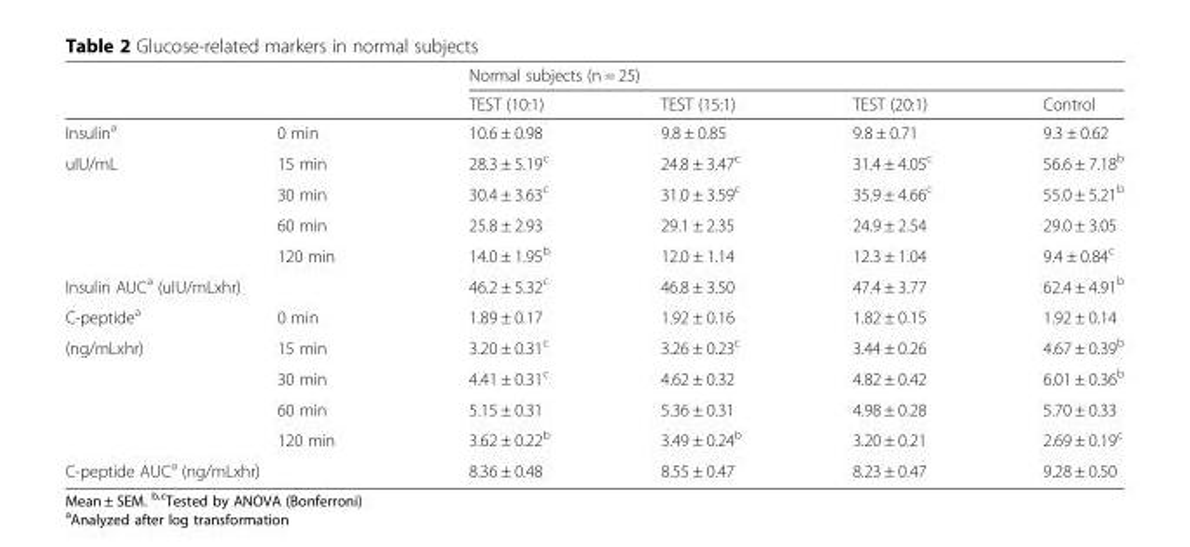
<table><thead><tr><td rowspan="2"></td><td rowspan="2"></td><td colspan="4">Normal subjects (n = 25)</td></tr><tr><td>TEST (10:1)</td><td>TEST (15:1)</td><td>TEST (20:1)</td><td>Control</td></tr></thead><tbody><tr><td>Insulin<sup>a</sup></td><td>0 min</td><td>10.6 ± 0.98</td><td>9.8 ± 0.85</td><td>9.8 ± 0.71</td><td>9.3 ± 0.62</td></tr><tr><td rowspan="4">uIU/mL</td><td>15 min</td><td>28.3 ± 5.19<sup>c</sup></td><td>24.8 ± 3.47<sup>c</sup></td><td>31.4 ± 4.05<sup>c</sup></td><td>56.6 ± 7.18<sup>b</sup></td></tr><tr><td>30 min</td><td>30.4 ± 3.63<sup>c</sup></td><td>31.0 ± 3.59<sup>c</sup></td><td>35.9 ± 4.66<sup>c</sup></td><td>55.0 ± 5.21<sup>b</sup></td></tr><tr><td>60 min</td><td>25.8 ± 2.93</td><td>29.1 ± 2.35</td><td>24.9 ± 2.54</td><td>29.0 ± 3.05</td></tr><tr><td>120 min</td><td>14.0 ± 1.95<sup>b</sup></td><td>12.0 ± 1.14</td><td>12.3 ± 1.04</td><td>9.4 ± 0.84<sup>c</sup></td></tr><tr><td colspan="2">Insulin AUC<sup>a</sup> (uIU/mLxhr)</td><td>46.2 ± 5.32<sup>c</sup></td><td>46.8 ± 3.50</td><td>47.4 ± 3.77</td><td>62.4 ± 4.91<sup>b</sup></td></tr><tr><td>C-peptide<sup>a</sup></td><td>0 min</td><td>1.89 ± 0.17</td><td>1.92 ± 0.16</td><td>1.82 ± 0.15</td><td>1.92 ± 0.14</td></tr><tr><td rowspan="4">(ng/mLxhr)</td><td>15 min</td><td>3.20 ± 0.31<sup>c</sup></td><td>3.26 ± 0.23<sup>c</sup></td><td>3.44 ± 0.26</td><td>4.67 ± 0.39<sup>b</sup></td></tr><tr><td>30 min</td><td>4.41 ± 0.31<sup>c</sup></td><td>4.62 ± 0.32</td><td>4.82 ± 0.42</td><td>6.01 ± 0.36<sup>b</sup></td></tr><tr><td>60 min</td><td>5.15 ± 0.31</td><td>5.36 ± 0.31</td><td>4.98 ± 0.28</td><td>5.70 ± 0.33</td></tr><tr><td>120 min</td><td>3.62 ± 0.22<sup>b</sup></td><td>3.49 ± 0.24<sup>b</sup></td><td>3.20 ± 0.21</td><td>2.69 ± 0.19<sup>c</sup></td></tr><tr><td colspan="2">C-peptide AUC<sup>a</sup> (ng/mLxhr)</td><td>8.36 ± 0.48</td><td>8.55 ± 0.47</td><td>8.23 ± 0.47</td><td>9.28 ± 0.50</td></tr></tbody></table>